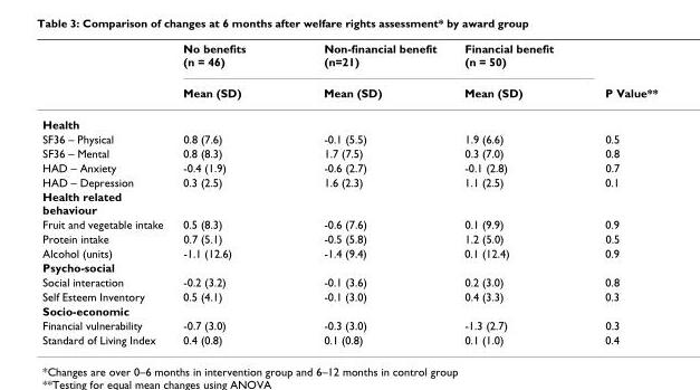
<table><thead><tr><td rowspan="2"></td><td rowspan="2">No benefits (n = 46) Mean (SD)</td><td rowspan="2">Non-financial benefit (n=21) Mean (SD)</td><td rowspan="2">Financial benefit (n = 50) Mean (SD)</td><td rowspan="2">P Value**</td></tr><tr></tr></thead><tbody><tr><td colspan="5">Health</td></tr><tr><td>SF36 – Physical</td><td>0.8 (7.6)</td><td>-0.1 (5.5)</td><td>1.9 (6.6)</td><td>0.5</td></tr><tr><td>SF36 – Mental</td><td>0.8 (8.3)</td><td>1.7 (7.5)</td><td>0.3 (7.0)</td><td>0.8</td></tr><tr><td>HAD – Anxiety</td><td>-0.4 (1.9)</td><td>-0.6 (2.7)</td><td>-0.1 (2.8)</td><td>0.7</td></tr><tr><td>HAD – Depression</td><td>0.3 (2.5)</td><td>1.6 (2.3)</td><td>1.1 (2.5)</td><td>0.1</td></tr><tr><td colspan="5">Health related behaviour</td></tr><tr><td>Fruit and vegetable intake</td><td>0.5 (8.3)</td><td>-0.6 (7.6)</td><td>0.1 (9.9)</td><td>0.9</td></tr><tr><td>Protein intake</td><td>0.7 (5.1)</td><td>-0.5 (5.8)</td><td>1.2 (5.0)</td><td>0.5</td></tr><tr><td>Alcohol (units)</td><td>-1.1 (12.6)</td><td>-1.4 (9.4)</td><td>0.1 (12.4)</td><td>0.9</td></tr><tr><td colspan="5">Psycho-social</td></tr><tr><td>Social interaction</td><td>-0.2 (3.2)</td><td>-0.1 (3.6)</td><td>0.2 (3.0)</td><td>0.8</td></tr><tr><td>Self Esteem Inventory</td><td>0.5 (4.1)</td><td>-0.1 (3.0)</td><td>0.4 (3.3)</td><td>0.3</td></tr><tr><td colspan="5">Socio-economic</td></tr><tr><td>Financial vulnerability</td><td>-0.7 (3.0)</td><td>-0.3 (3.0)</td><td>-1.3 (2.7)</td><td>0.3</td></tr><tr><td>Standard of Living Index</td><td>0.4 (0.8)</td><td>0.1 (0.8)</td><td>0.1 (1.0)</td><td>0.4</td></tr></tbody></table>